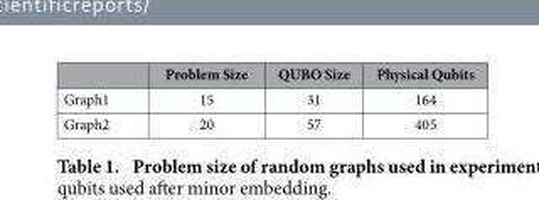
<table><thead><tr><td></td><td>Problem Size</td><td>QUBO Size</td><td>Physical Qubits</td></tr></thead><tbody><tr><td>Graph1</td><td>15</td><td>31</td><td>164</td></tr><tr><td>Graph2</td><td>20</td><td>57</td><td>405</td></tr></tbody></table>